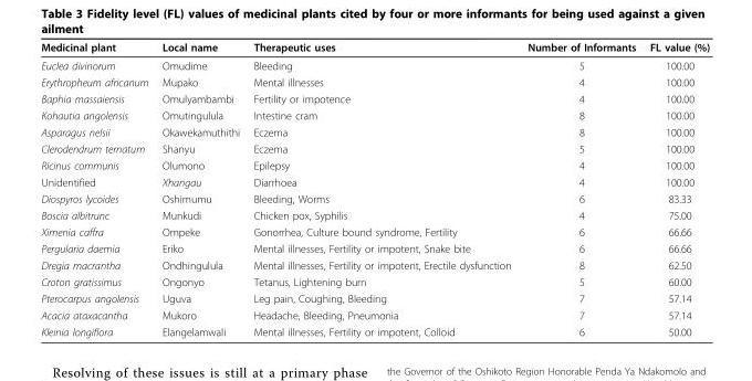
<table><thead><tr><td>Medicinal plant</td><td>Local name</td><td>Therapeutic uses</td><td>Number of Informants</td><td>FL value (%)</td></tr></thead><tbody><tr><td>Euclea divinorum</td><td>Omudime</td><td>Bleeding</td><td>5</td><td>100.00</td></tr><tr><td>Erythropheum africanum</td><td>Mupako</td><td>Mental illnesses</td><td>4</td><td>100.00</td></tr><tr><td>Baphia massaiensis</td><td>Omulyambambi</td><td>Fertility or impotence</td><td>4</td><td>100.00</td></tr><tr><td>Kohautia angolensis</td><td>Omutingulula</td><td>Intestine cram</td><td>8</td><td>100.00</td></tr><tr><td>Asparagus nelsii</td><td>Okawekamuthithi</td><td>Eczema</td><td>8</td><td>100.00</td></tr><tr><td>Clerodendrum ternatum</td><td>Shanyu</td><td>Eczema</td><td>5</td><td>100.00</td></tr><tr><td>Ricinus communis</td><td>Olumono</td><td>Epilepsy</td><td>4</td><td>100.00</td></tr><tr><td>Unidentified</td><td>Xhangau</td><td>Diarrhoea</td><td>4</td><td>100.00</td></tr><tr><td>Diospyros lycoides</td><td>Oshimumu</td><td>Bleeding, Worms</td><td>6</td><td>83.33</td></tr><tr><td>Boscia albitrunc</td><td>Munkudi</td><td>Chicken pox, Syphilis</td><td>4</td><td>75.00</td></tr><tr><td>Ximenia caffra</td><td>Ompeke</td><td>Gonorrhea, Culture bound syndrome, Fertility</td><td>6</td><td>66.66</td></tr><tr><td>Pergularia daemia</td><td>Eriko</td><td>Mental illnesses, Fertility or impotent, Snake bite</td><td>6</td><td>66.66</td></tr><tr><td>Dregia macrantha</td><td>Ondhingulula</td><td>Mental illnesses, Fertility or impotent, Erectile dysfunction</td><td>8</td><td>62.50</td></tr><tr><td>Croton gratissimus</td><td>Ongonyo</td><td>Tetanus, Lightening burn</td><td>5</td><td>60.00</td></tr><tr><td>Pterocarpus angolensis</td><td>Uguva</td><td>Leg pain, Coughing, Bleeding</td><td>7</td><td>57.14</td></tr><tr><td>Acacia ataxacantha</td><td>Mukoro</td><td>Headache, Bleeding, Pneumonia</td><td>7</td><td>57.14</td></tr><tr><td>Kleinia longiflora</td><td>Elangelamwali</td><td>Mental illnesses, Fertility or impotent, Colloid</td><td>6</td><td>50.00</td></tr></tbody></table>